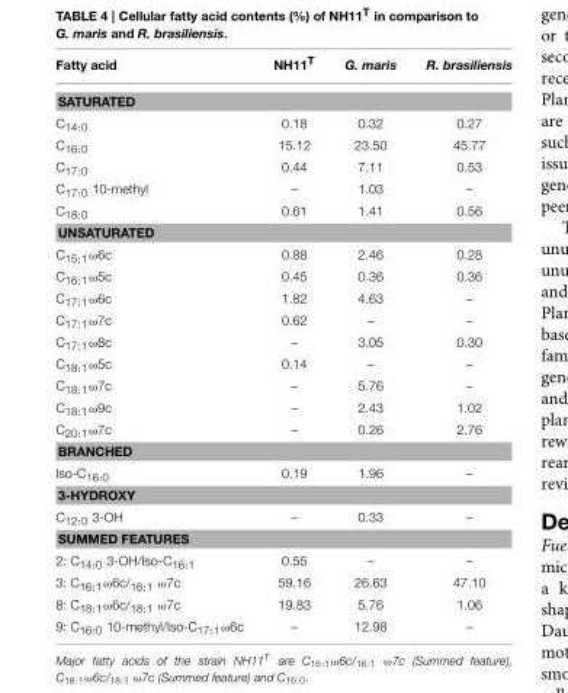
<table><thead><tr><td>Fatty acid</td><td>NH11<sup>T</sup></td><td>G. maris</td><td>R. brasiliensis</td></tr></thead><tbody><tr><td colspan="4">SATURATED</td></tr><tr><td>C<sub>14:0</sub></td><td>0.18</td><td>0.32</td><td>0.27</td></tr><tr><td>C<sub>16:0</sub></td><td>15.12</td><td>23.50</td><td>45.77</td></tr><tr><td>C<sub>17:0</sub></td><td>0.44</td><td>7.11</td><td>0.53</td></tr><tr><td>C<sub>17:0</sub> 10-methyl</td><td>–</td><td>1.03</td><td>–</td></tr><tr><td>C<sub>18:0</sub></td><td>0.61</td><td>1.41</td><td>0.56</td></tr><tr><td colspan="4">UNSATURATED</td></tr><tr><td>C<sub>15:1</sub>ω6c</td><td>0.88</td><td>2.46</td><td>0.28</td></tr><tr><td>C<sub>16:1</sub>ω5c</td><td>0.45</td><td>0.36</td><td>0.36</td></tr><tr><td>C<sub>17:1</sub>ω6c</td><td>1.82</td><td>4.63</td><td>–</td></tr><tr><td>C<sub>17:1</sub>ω7c</td><td>0.62</td><td>–</td><td>–</td></tr><tr><td>C<sub>17:1</sub>ω8c</td><td>–</td><td>3.05</td><td>0.30</td></tr><tr><td>C<sub>18:1</sub>ω5c</td><td>0.14</td><td>–</td><td>–</td></tr><tr><td>C<sub>18:1</sub>ω7c</td><td>–</td><td>5.76</td><td>–</td></tr><tr><td>C<sub>18:1</sub>ω9c</td><td>–</td><td>2.43</td><td>1.02</td></tr><tr><td>C<sub>20:1</sub>ω7c</td><td>–</td><td>0.26</td><td>2.76</td></tr><tr><td colspan="4">BRANCHED</td></tr><tr><td>Iso-C<sub>16:0</sub></td><td>0.19</td><td>1.96</td><td>–</td></tr><tr><td colspan="4">3-HYDROXY</td></tr><tr><td>C<sub>12:0</sub> 3-OH</td><td>–</td><td>0.33</td><td>–</td></tr><tr><td colspan="4">SUMMED FEATURES</td></tr><tr><td>2: C<sub>14:0</sub> 3-OH/Iso-C<sub>16:1</sub></td><td>0.55</td><td>–</td><td>–</td></tr><tr><td>3: C<sub>16:1</sub>ω6c/<sub>16:1</sub> ω7c</td><td>59.16</td><td>26.63</td><td>47.10</td></tr><tr><td>8: C<sub>18:1</sub>ω6c/<sub>18:1</sub> ω7c</td><td>19.83</td><td>5.76</td><td>1.06</td></tr><tr><td>9: C<sub>16:0</sub> 10-methyl/Iso-C<sub>17:1</sub>ω6c</td><td>–</td><td>12.98</td><td>–</td></tr></tbody></table>